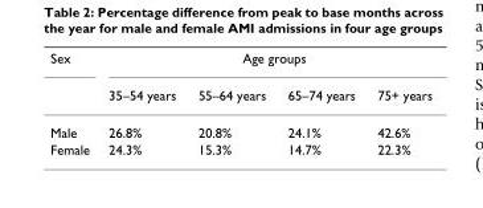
<table><thead><tr><td rowspan="2">Sex</td><td colspan="4">Age groups</td></tr><tr><td>35–54 years</td><td>55–64 years</td><td>65–74 years</td><td>75+ years</td></tr></thead><tbody><tr><td>Male</td><td>26.8%</td><td>20.8%</td><td>24.1%</td><td>42.6%</td></tr><tr><td>Female</td><td>24.3%</td><td>15.3%</td><td>14.7%</td><td>22.3%</td></tr></tbody></table>